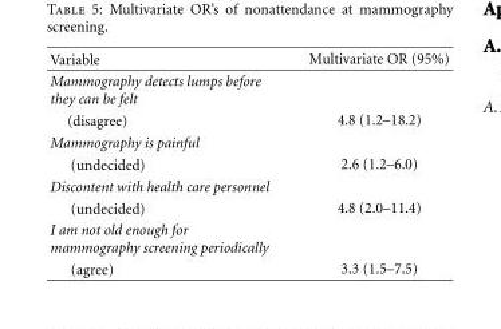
<table><thead><tr><td>Variable</td><td>Multivariate OR (95%)</td></tr></thead><tbody><tr><td colspan="2">Mammography detects lumps before they can be felt</td></tr><tr><td>(disagree)</td><td>4.8 (1.2–18.2)</td></tr><tr><td colspan="2">Mammography is painful</td></tr><tr><td>(undecided)</td><td>2.6 (1.2–6.0)</td></tr><tr><td colspan="2">Discontent with health care personnel</td></tr><tr><td>(undecided)</td><td>4.8 (2.0–11.4)</td></tr><tr><td colspan="2">I am not old enough for mammography screening periodically</td></tr><tr><td>(agree)</td><td>3.3 (1.5–7.5)</td></tr></tbody></table>